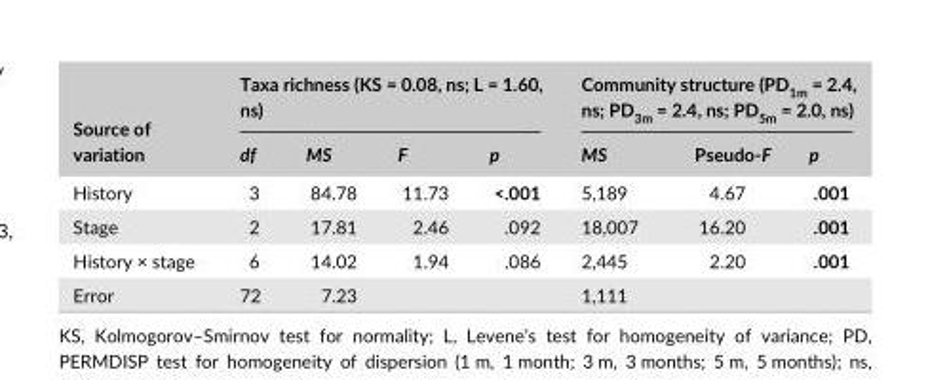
<table><thead><tr><td rowspan="2">Source of variation</td><td colspan="4">Taxa richness (KS = 0.08, ns; L = 1.60, ns)</td><td colspan="3">Community structure (PD<sub>1m</sub> = 2.4, ns; PD<sub>3m</sub> = 2.4, ns; PD<sub>5m</sub> = 2.0, ns)</td></tr><tr><td>df</td><td>MS</td><td>F</td><td>p</td><td>MS</td><td>Pseudo- F</td><td>p</td></tr></thead><tbody><tr><td>History</td><td>3</td><td>84.78</td><td>11.73</td><td>&lt;.001</td><td>5,189</td><td>4.67</td><td>.001</td></tr><tr><td>Stage</td><td>2</td><td>17.81</td><td>2.46</td><td>.092</td><td>18,007</td><td>16.20</td><td>.001</td></tr><tr><td>History × stage</td><td>6</td><td>14.02</td><td>1.94</td><td>.086</td><td>2,445</td><td>2.20</td><td>.001</td></tr><tr><td>Error</td><td>72</td><td>7.23</td><td></td><td></td><td>1,111</td><td></td><td></td></tr></tbody></table>